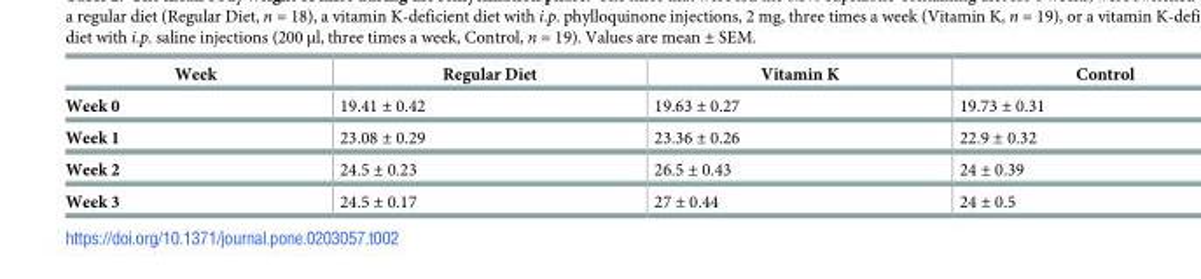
<table><thead><tr><td>Week</td><td>Regular Diet</td><td>Vitamin K</td><td>Control</td></tr></thead><tbody><tr><td>Week 0</td><td>19.41 ± 0.42</td><td>19.63 ± 0.27</td><td>19.73 ± 0.31</td></tr><tr><td>Week 1</td><td>23.08 ± 0.29</td><td>23.36 ± 0.26</td><td>22.9 ± 0.32</td></tr><tr><td>Week 2</td><td>24.5 ± 0.23</td><td>26.5 ± 0.43</td><td>24 ± 0.39</td></tr><tr><td>Week 3</td><td>24.5 ± 0.17</td><td>27 ± 0.44</td><td>24 ± 0.5</td></tr></tbody></table>